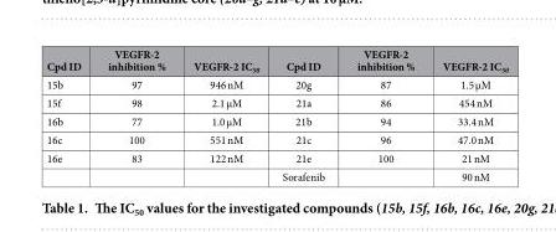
<table><thead><tr><td>Cpd ID</td><td>VEGFR-2 inhibition %</td><td>VEGFR-2 IC<sub>50</sub></td><td>Cpd ID</td><td>VEGFR-2 inhibition %</td><td>VEGFR-2 IC<sub>50</sub></td></tr></thead><tbody><tr><td>15b</td><td>97</td><td>946 nM</td><td>20g</td><td>87</td><td>1.5 μM</td></tr><tr><td>15f</td><td>98</td><td>2.1 μM</td><td>21a</td><td>86</td><td>454 nM</td></tr><tr><td>16b</td><td>77</td><td>1.0 μM</td><td>21b</td><td>94</td><td>33.4 nM</td></tr><tr><td>16c</td><td>100</td><td>551 nM</td><td>21c</td><td>96</td><td>47.0 nM</td></tr><tr><td rowspan="2">16e</td><td>83</td><td>122 nM</td><td>21e</td><td>100</td><td>21 nM</td></tr><tr><td></td><td></td><td>Sorafenib</td><td></td><td>90 nM</td></tr></tbody></table>